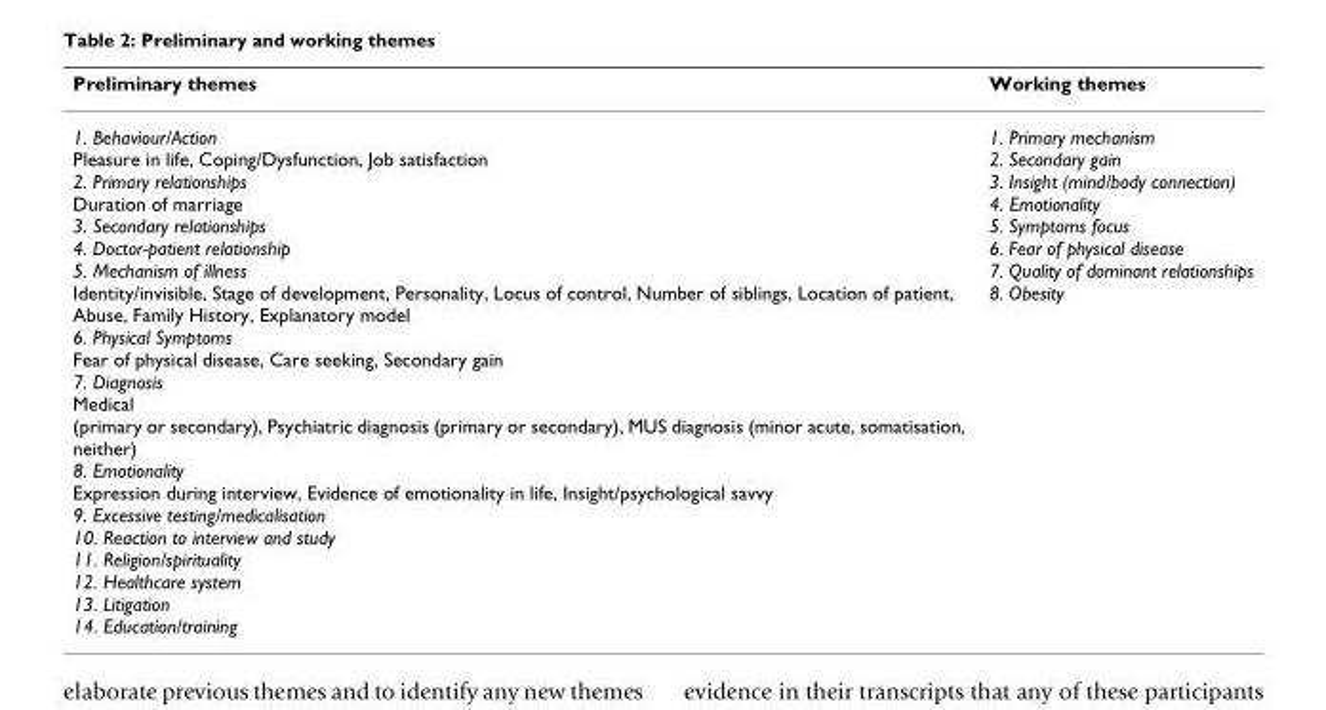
<table><thead><tr><td>Preliminary themes</td><td>Working themes</td></tr></thead><tbody><tr><td>1. Behaviour/Action Pleasure in life, Coping/Dysfunction, Job satisfaction 2. Primary relationships Duration of marriage 3. Secondary relationships 4. Doctor-patient relationship 5. Mechanism of illness Identity/invisible, Stage of development, Personality, Locus of control, Number of siblings, Location of patient, Abuse, Family History, Explanatory model 6. Physical Symptoms Fear of physical disease, Care seeking, Secondary gain 7. Diagnosis Medical (primary or secondary), Psychiatric diagnosis (primary or secondary), MUS diagnosis (minor acute, somatisation, neither) 8. Emotionality Expression during interview, Evidence of emotionality in life, Insight/psychological savvy 9. Excessive testing/medicalisation 10. Reaction to interview and study 11. Religion/spirituality 12. Healthcare system 13. Litigation 14. Education/training</td><td>1. Primary mechanism 2. Secondary gain 3. Insight (mind/body connection) 4. Emotionality 5. Symptoms focus 6. Fear of physical disease 7. Quality of dominant relationships 8. Obesity</td></tr></tbody></table>